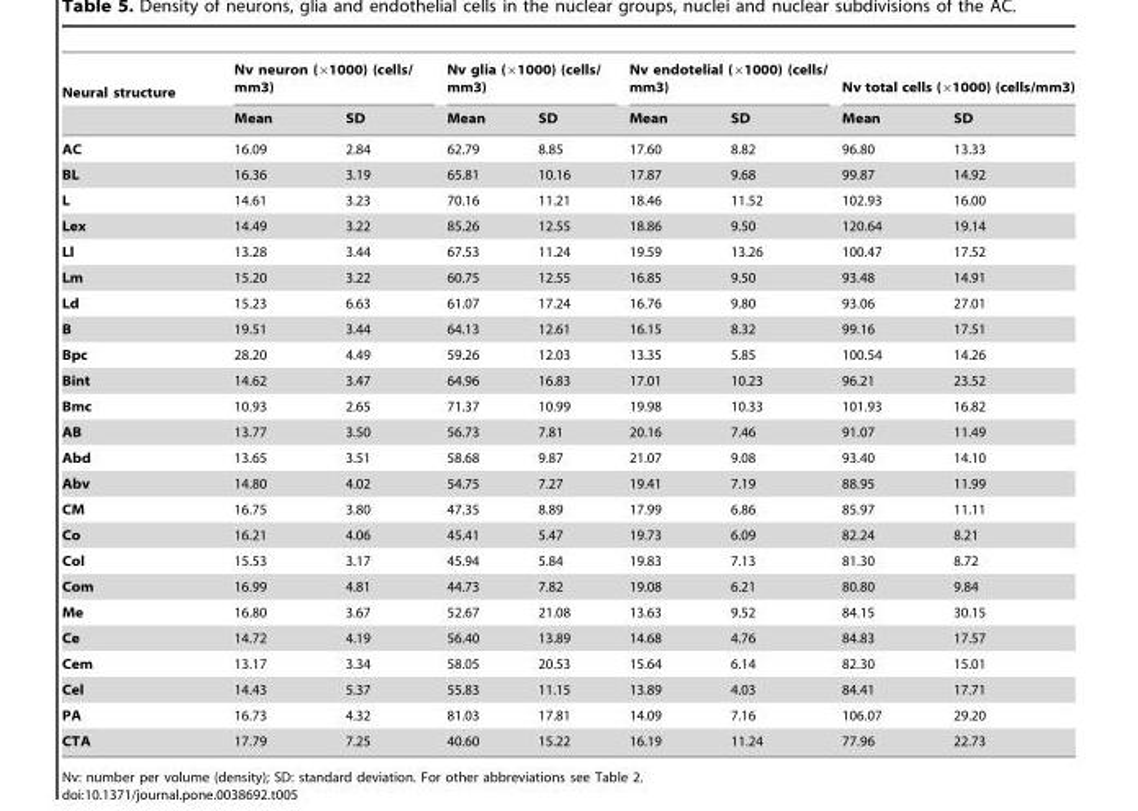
<table><thead><tr><td rowspan="2">Neural structure</td><td colspan="2">Nv neuron (×1000) (cells/ mm3)</td><td colspan="2">Nv glia (×1000) (cells/ mm3)</td><td colspan="2">Nv endotelial (×1000) (cells/ mm3)</td><td colspan="2">Nv total cells (×1000) (cells/mm3)</td></tr><tr><td>Mean</td><td>SD</td><td>Mean</td><td>SD</td><td>Mean</td><td>SD</td><td>Mean</td><td>SD</td></tr></thead><tbody><tr><td>AC</td><td>16.09</td><td>2.84</td><td>62.79</td><td>8.85</td><td>17.60</td><td>8.82</td><td>96.80</td><td>13.33</td></tr><tr><td>BL</td><td>16.36</td><td>3.19</td><td>65.81</td><td>10.16</td><td>17.87</td><td>9.68</td><td>99.87</td><td>14.92</td></tr><tr><td>L</td><td>14.61</td><td>3.23</td><td>70.16</td><td>11.21</td><td>18.46</td><td>11.52</td><td>102.93</td><td>16.00</td></tr><tr><td>Lex</td><td>14.49</td><td>3.22</td><td>85.26</td><td>12.55</td><td>18.86</td><td>9.50</td><td>120.64</td><td>19.14</td></tr><tr><td>Ll</td><td>13.28</td><td>3.44</td><td>67.53</td><td>11.24</td><td>19.59</td><td>13.26</td><td>100.47</td><td>17.52</td></tr><tr><td>Lm</td><td>15.20</td><td>3.22</td><td>60.75</td><td>12.55</td><td>16.85</td><td>9.50</td><td>93.48</td><td>14.91</td></tr><tr><td>Ld</td><td>15.23</td><td>6.63</td><td>61.07</td><td>17.24</td><td>16.76</td><td>9.80</td><td>93.06</td><td>27.01</td></tr><tr><td>B</td><td>19.51</td><td>3.44</td><td>64.13</td><td>12.61</td><td>16.15</td><td>8.32</td><td>99.16</td><td>17.51</td></tr><tr><td>Bpc</td><td>28.20</td><td>4.49</td><td>59.26</td><td>12.03</td><td>13.35</td><td>5.85</td><td>100.54</td><td>14.26</td></tr><tr><td>Bint</td><td>14.62</td><td>3.47</td><td>64.96</td><td>16.83</td><td>17.01</td><td>10.23</td><td>96.21</td><td>23.52</td></tr><tr><td>Bmc</td><td>10.93</td><td>2.65</td><td>71.37</td><td>10.99</td><td>19.98</td><td>10.33</td><td>101.93</td><td>16.82</td></tr><tr><td>AB</td><td>13.77</td><td>3.50</td><td>56.73</td><td>7.81</td><td>20.16</td><td>7.46</td><td>91.07</td><td>11.49</td></tr><tr><td>Abd</td><td>13.65</td><td>3.51</td><td>58.68</td><td>9.87</td><td>21.07</td><td>9.08</td><td>93.40</td><td>14.10</td></tr><tr><td>Abv</td><td>14.80</td><td>4.02</td><td>54.75</td><td>7.27</td><td>19.41</td><td>7.19</td><td>88.95</td><td>11.99</td></tr><tr><td>CM</td><td>16.75</td><td>3.80</td><td>47.35</td><td>8.89</td><td>17.99</td><td>6.86</td><td>85.97</td><td>11.11</td></tr><tr><td>Co</td><td>16.21</td><td>4.06</td><td>45.41</td><td>5.47</td><td>19.73</td><td>6.09</td><td>82.24</td><td>8.21</td></tr><tr><td>Col</td><td>15.53</td><td>3.17</td><td>45.94</td><td>5.84</td><td>19.83</td><td>7.13</td><td>81.30</td><td>8.72</td></tr><tr><td>Com</td><td>16.99</td><td>4.81</td><td>44.73</td><td>7.82</td><td>19.08</td><td>6.21</td><td>80.80</td><td>9.84</td></tr><tr><td>Me</td><td>16.80</td><td>3.67</td><td>52.67</td><td>21.08</td><td>13.63</td><td>9.52</td><td>84.15</td><td>30.15</td></tr><tr><td>Ce</td><td>14.72</td><td>4.19</td><td>56.40</td><td>13.89</td><td>14.68</td><td>4.76</td><td>84.83</td><td>17.57</td></tr><tr><td>Cem</td><td>13.17</td><td>3.34</td><td>58.05</td><td>20.53</td><td>15.64</td><td>6.14</td><td>82.30</td><td>15.01</td></tr><tr><td>Cel</td><td>14.43</td><td>5.37</td><td>55.83</td><td>11.15</td><td>13.89</td><td>4.03</td><td>84.41</td><td>17.71</td></tr><tr><td>PA</td><td>16.73</td><td>4.32</td><td>81.03</td><td>17.81</td><td>14.09</td><td>7.16</td><td>106.07</td><td>29.20</td></tr><tr><td>CTA</td><td>17.79</td><td>7.25</td><td>40.60</td><td>15.22</td><td>16.19</td><td>11.24</td><td>77.96</td><td>22.73</td></tr></tbody></table>